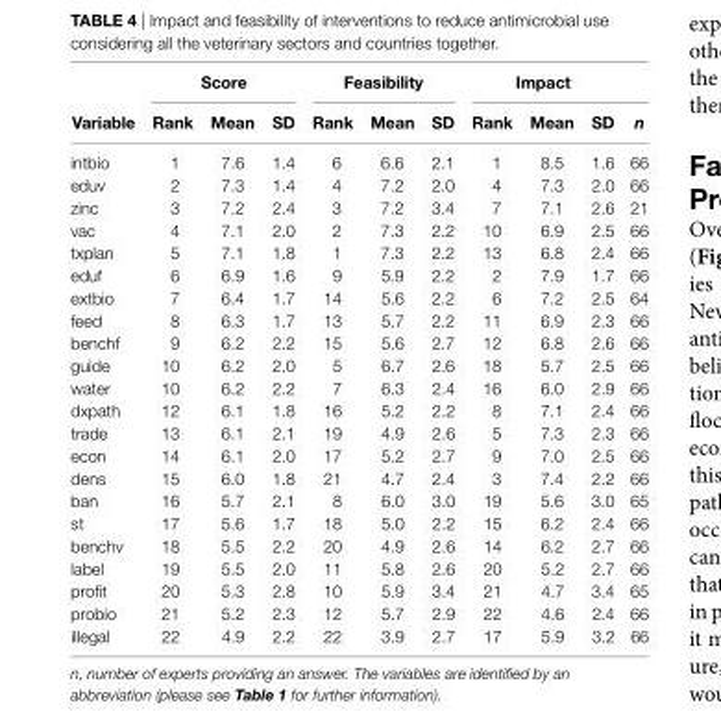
<table><thead><tr><td rowspan="2">Variable</td><td colspan="3">score</td><td colspan="3">Feasibility</td><td colspan="3">impact</td><td rowspan="2">n</td></tr><tr><td>rank</td><td>Mean</td><td>sD</td><td>rank</td><td>Mean</td><td>sD</td><td>rank</td><td>Mean</td><td>sD</td></tr></thead><tbody><tr><td>intbio</td><td>1</td><td>7.6</td><td>1.4</td><td>6</td><td>6.6</td><td>2.1</td><td>1</td><td>8.5</td><td>1.6</td><td>66</td></tr><tr><td>eduv</td><td>2</td><td>7.3</td><td>1.4</td><td>4</td><td>7.2</td><td>2.0</td><td>4</td><td>7.3</td><td>2.0</td><td>66</td></tr><tr><td>zinc</td><td>3</td><td>7.2</td><td>2.4</td><td>3</td><td>7.2</td><td>3.4</td><td>7</td><td>7.1</td><td>2.6</td><td>21</td></tr><tr><td>vac</td><td>4</td><td>7.1</td><td>2.0</td><td>2</td><td>7.3</td><td>2.2</td><td>10</td><td>6.9</td><td>2.5</td><td>66</td></tr><tr><td>txplan</td><td>5</td><td>7.1</td><td>1.8</td><td>1</td><td>7.3</td><td>2.2</td><td>13</td><td>6.8</td><td>2.4</td><td>66</td></tr><tr><td>eduf</td><td>6</td><td>6.9</td><td>1.6</td><td>9</td><td>5.9</td><td>2.2</td><td>2</td><td>7.9</td><td>1.7</td><td>66</td></tr><tr><td>extbio</td><td>7</td><td>6.4</td><td>1.7</td><td>14</td><td>5.6</td><td>2.2</td><td>6</td><td>7.2</td><td>2.5</td><td>64</td></tr><tr><td>feed</td><td>8</td><td>6.3</td><td>1.7</td><td>13</td><td>5.7</td><td>2.2</td><td>11</td><td>6.9</td><td>2.3</td><td>66</td></tr><tr><td>benchf</td><td>9</td><td>6.2</td><td>2.2</td><td>15</td><td>5.6</td><td>2.7</td><td>12</td><td>6.8</td><td>2.6</td><td>66</td></tr><tr><td>guide</td><td>10</td><td>6.2</td><td>2.0</td><td>5</td><td>6.7</td><td>2.6</td><td>18</td><td>5.7</td><td>2.5</td><td>66</td></tr><tr><td>water</td><td>10</td><td>6.2</td><td>2.2</td><td>7</td><td>6.3</td><td>2.4</td><td>16</td><td>6.0</td><td>2.9</td><td>66</td></tr><tr><td>dxpath</td><td>12</td><td>6.1</td><td>1.8</td><td>16</td><td>5.2</td><td>2.2</td><td>8</td><td>7.1</td><td>2.4</td><td>66</td></tr><tr><td>trade</td><td>13</td><td>6.1</td><td>2.1</td><td>19</td><td>4.9</td><td>2.6</td><td>5</td><td>7.3</td><td>2.3</td><td>66</td></tr><tr><td>econ</td><td>14</td><td>6.1</td><td>2.0</td><td>17</td><td>5.2</td><td>2.7</td><td>9</td><td>7.0</td><td>2.5</td><td>66</td></tr><tr><td>dens</td><td>15</td><td>6.0</td><td>1.8</td><td>21</td><td>4.7</td><td>2.4</td><td>3</td><td>7.4</td><td>2.2</td><td>66</td></tr><tr><td>ban</td><td>16</td><td>5.7</td><td>2.1</td><td>8</td><td>6.0</td><td>3.0</td><td>19</td><td>5.6</td><td>3.0</td><td>65</td></tr><tr><td>st</td><td>17</td><td>5.6</td><td>1.7</td><td>18</td><td>5.0</td><td>2.2</td><td>15</td><td>6.2</td><td>2.4</td><td>66</td></tr><tr><td>benchv</td><td>18</td><td>5.5</td><td>2.2</td><td>20</td><td>4.9</td><td>2.6</td><td>14</td><td>6.2</td><td>2.7</td><td>66</td></tr><tr><td>label</td><td>19</td><td>5.5</td><td>2.0</td><td>11</td><td>5.8</td><td>2.6</td><td>20</td><td>5.2</td><td>2.7</td><td>66</td></tr><tr><td>profit</td><td>20</td><td>5.3</td><td>2.8</td><td>10</td><td>5.9</td><td>3.4</td><td>21</td><td>4.7</td><td>3.4</td><td>65</td></tr><tr><td>probio</td><td>21</td><td>5.2</td><td>2.3</td><td>12</td><td>5.7</td><td>2.9</td><td>22</td><td>4.6</td><td>2.4</td><td>66</td></tr><tr><td>illegal</td><td>22</td><td>4.9</td><td>2.2</td><td>22</td><td>3.9</td><td>2.7</td><td>17</td><td>5.9</td><td>3.2</td><td>66</td></tr></tbody></table>